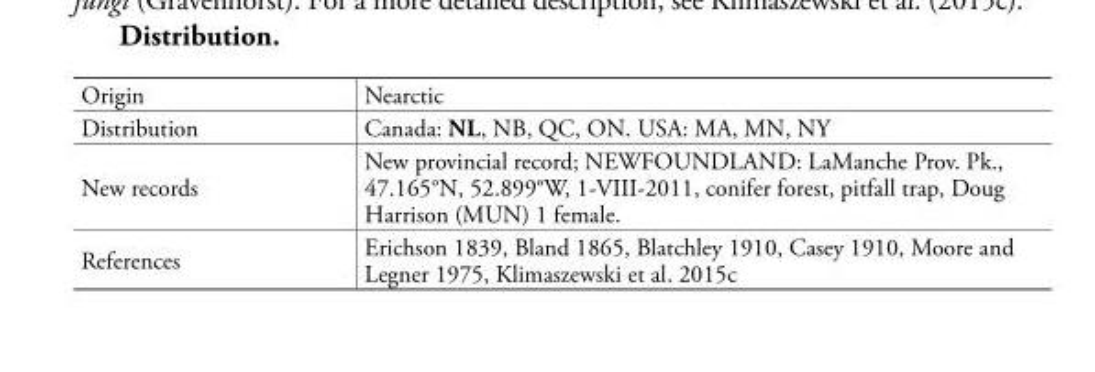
<table><tbody><tr><td>Origin</td><td>Nearctic</td></tr><tr><td>Distribution</td><td>Canada: NL, NB, QC, ON. USA: MA, MN, NY</td></tr><tr><td>New records</td><td>New provincial record; NEWFOUNDLAND: LaManche Prov. Pk., 47.165°N, 52.899°W, 1-VIII-2011, conifer forest, pitfall trap, Doug Harrison (MUN) 1 female.</td></tr><tr><td>References</td><td>Erichson 1839, Bland 1865, Blatchley 1910, Casey 1910, Moore and Legner 1975, Klimaszewski et al. 2015c</td></tr></tbody></table>